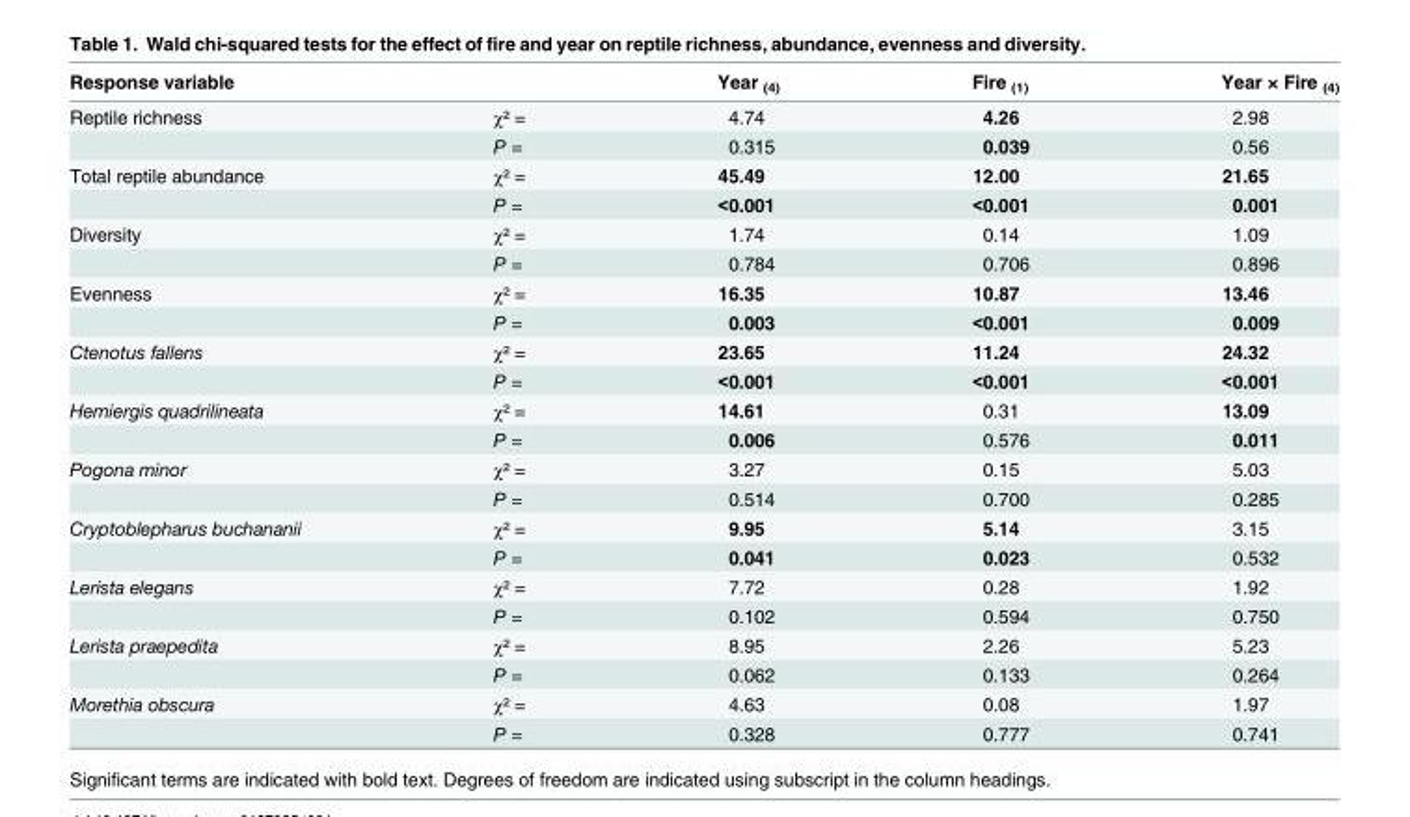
<table><thead><tr><td>Response variable</td><td></td><td>Year <sub>(4)</sub></td><td>Fire <sub>(1)</sub></td><td>Year × Fire <sub>(4)</sub></td></tr></thead><tbody><tr><td rowspan="2">Reptile richness</td><td>χ² =</td><td>4.74</td><td>4.26</td><td>2.98</td></tr><tr><td>P =</td><td>0.315</td><td>0.039</td><td>0.56</td></tr><tr><td rowspan="2">Total reptile abundance</td><td>χ² =</td><td>45.49</td><td>12.00</td><td>21.65</td></tr><tr><td>P =</td><td>&lt;0.001</td><td>&lt;0.001</td><td>0.001</td></tr><tr><td rowspan="2">Diversity</td><td>χ² =</td><td>1.74</td><td>0.14</td><td>1.09</td></tr><tr><td>P =</td><td>0.784</td><td>0.706</td><td>0.896</td></tr><tr><td rowspan="2">Evenness</td><td>χ² =</td><td>16.35</td><td>10.87</td><td>13.46</td></tr><tr><td>P =</td><td>0.003</td><td>&lt;0.001</td><td>0.009</td></tr><tr><td rowspan="2">Ctenotus fallens</td><td>χ² =</td><td>23.65</td><td>11.24</td><td>24.32</td></tr><tr><td>P =</td><td>&lt;0.001</td><td>&lt;0.001</td><td>&lt;0.001</td></tr><tr><td rowspan="2">Hemiergis quadrilineata</td><td>χ² =</td><td>14.61</td><td>0.31</td><td>13.09</td></tr><tr><td>P =</td><td>0.006</td><td>0.576</td><td>0.011</td></tr><tr><td rowspan="2">Pogona minor</td><td>χ² =</td><td>3.27</td><td>0.15</td><td>5.03</td></tr><tr><td>P =</td><td>0.514</td><td>0.700</td><td>0.285</td></tr><tr><td rowspan="2">Cryptoblepharus buchananii</td><td>χ² =</td><td>9.95</td><td>5.14</td><td>3.15</td></tr><tr><td>P =</td><td>0.041</td><td>0.023</td><td>0.532</td></tr><tr><td rowspan="2">Lerista elegans</td><td>χ² =</td><td>7.72</td><td>0.28</td><td>1.92</td></tr><tr><td>P =</td><td>0.102</td><td>0.594</td><td>0.750</td></tr><tr><td rowspan="2">Lerista praepedita</td><td>χ² =</td><td>8.95</td><td>2.26</td><td>5.23</td></tr><tr><td>P =</td><td>0.062</td><td>0.133</td><td>0.264</td></tr><tr><td rowspan="2">Morethia obscura</td><td>χ² =</td><td>4.63</td><td>0.08</td><td>1.97</td></tr><tr><td>P =</td><td>0.328</td><td>0.777</td><td>0.741</td></tr></tbody></table>